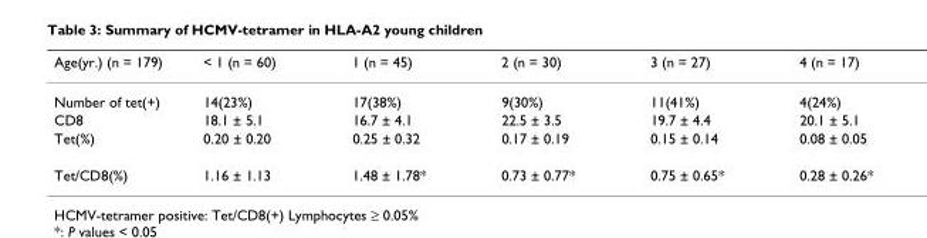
<table><thead><tr><td>Age(yr.) (n = 179)</td><td>&lt; 1 (n = 60)</td><td>1 (n = 45)</td><td>2 (n = 30)</td><td>3 (n = 27)</td><td>4 (n = 17)</td></tr></thead><tbody><tr><td>Number of tet(+)</td><td>14(23%)</td><td>17(38%)</td><td>9(30%)</td><td>11(41%)</td><td>4(24%)</td></tr><tr><td>CD8</td><td>18.1 ± 5.1</td><td>16.7 ± 4.1</td><td>22.5 ± 3.5</td><td>19.7 ± 4.4</td><td>20.1 ± 5.1</td></tr><tr><td>Tet(%)</td><td>0.20 ± 0.20</td><td>0.25 ± 0.32</td><td>0.17 ± 0.19</td><td>0.15 ± 0.14</td><td>0.08 ± 0.05</td></tr><tr><td>Tet/CD8(%)</td><td>1.16 ± 1.13</td><td>1.48 ± 1.78*</td><td>0.73 ± 0.77*</td><td>0.75 ± 0.65*</td><td>0.28 ± 0.26*</td></tr></tbody></table>